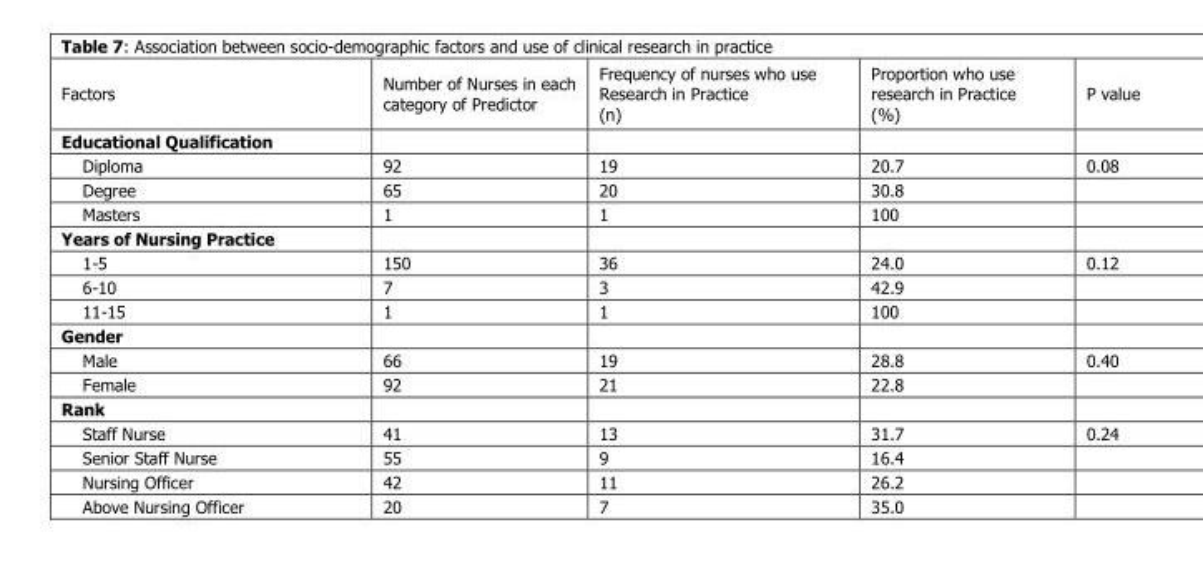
<table><thead><tr><td>Factors</td><td>Number of Nurses in each category of Predictor</td><td>Frequency of nurses who use Research in Practice (n)</td><td>Proportion who use research in Practice (%)</td><td>P value</td></tr></thead><tbody><tr><td colspan="5">Educational Qualification</td></tr><tr><td>Diploma</td><td>92</td><td>19</td><td>20.7</td><td>0.08</td></tr><tr><td>Degree</td><td>65</td><td>20</td><td>30.8</td><td></td></tr><tr><td>Masters</td><td>1</td><td>1</td><td>100</td><td></td></tr><tr><td colspan="5">Years of Nursing Practice</td></tr><tr><td>1-5</td><td>150</td><td>36</td><td>24.0</td><td>0.12</td></tr><tr><td>6-10</td><td>7</td><td>3</td><td>42.9</td><td></td></tr><tr><td>11-15</td><td>1</td><td>1</td><td>100</td><td></td></tr><tr><td colspan="5">Gender</td></tr><tr><td>Male</td><td>66</td><td>19</td><td>28.8</td><td>0.40</td></tr><tr><td>Female</td><td>92</td><td>21</td><td>22.8</td><td></td></tr><tr><td colspan="5">Rank</td></tr><tr><td>Staff Nurse</td><td>41</td><td>13</td><td>31.7</td><td>0.24</td></tr><tr><td>Senior Staff Nurse</td><td>55</td><td>9</td><td>16.4</td><td></td></tr><tr><td>Nursing Officer</td><td>42</td><td>11</td><td>26.2</td><td></td></tr><tr><td>Above Nursing Officer</td><td>20</td><td>7</td><td>35.0</td><td></td></tr></tbody></table>